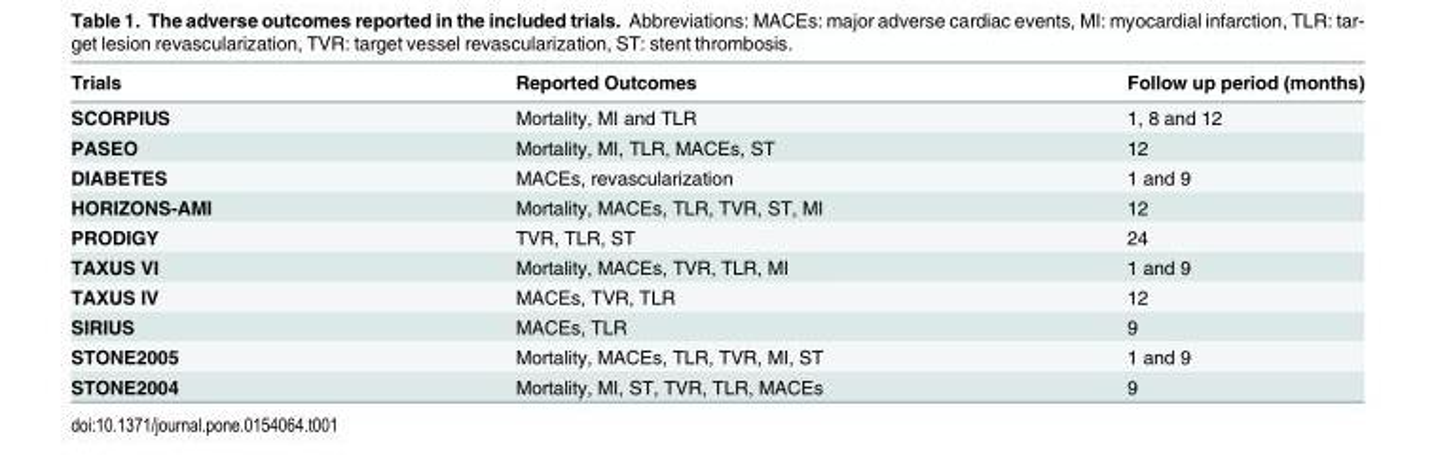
<table><thead><tr><td>Trials</td><td>Reported Outcomes</td><td>Follow up period (months)</td></tr></thead><tbody><tr><td>SCORPIUS</td><td>Mortality, MI and TLR</td><td>1, 8 and 12</td></tr><tr><td>PASEO</td><td>Mortality, MI, TLR, MACEs, ST</td><td>12</td></tr><tr><td>DIABETES</td><td>MACEs, revascularization</td><td>1 and 9</td></tr><tr><td>HORIZONS-AMI</td><td>Mortality, MACEs, TLR, TVR, ST, MI</td><td>12</td></tr><tr><td>PRODIGY</td><td>TVR, TLR, ST</td><td>24</td></tr><tr><td>TAXUS VI</td><td>Mortality, MACEs, TVR, TLR, MI</td><td>1 and 9</td></tr><tr><td>TAXUS IV</td><td>MACEs, TVR, TLR</td><td>12</td></tr><tr><td>SIRIUS</td><td>MACEs, TLR</td><td>9</td></tr><tr><td>STONE2005</td><td>Mortality, MACEs, TLR, TVR, MI, ST</td><td>1 and 9</td></tr><tr><td>STONE2004</td><td>Mortality, MI, ST, TVR, TLR, MACEs</td><td>9</td></tr></tbody></table>